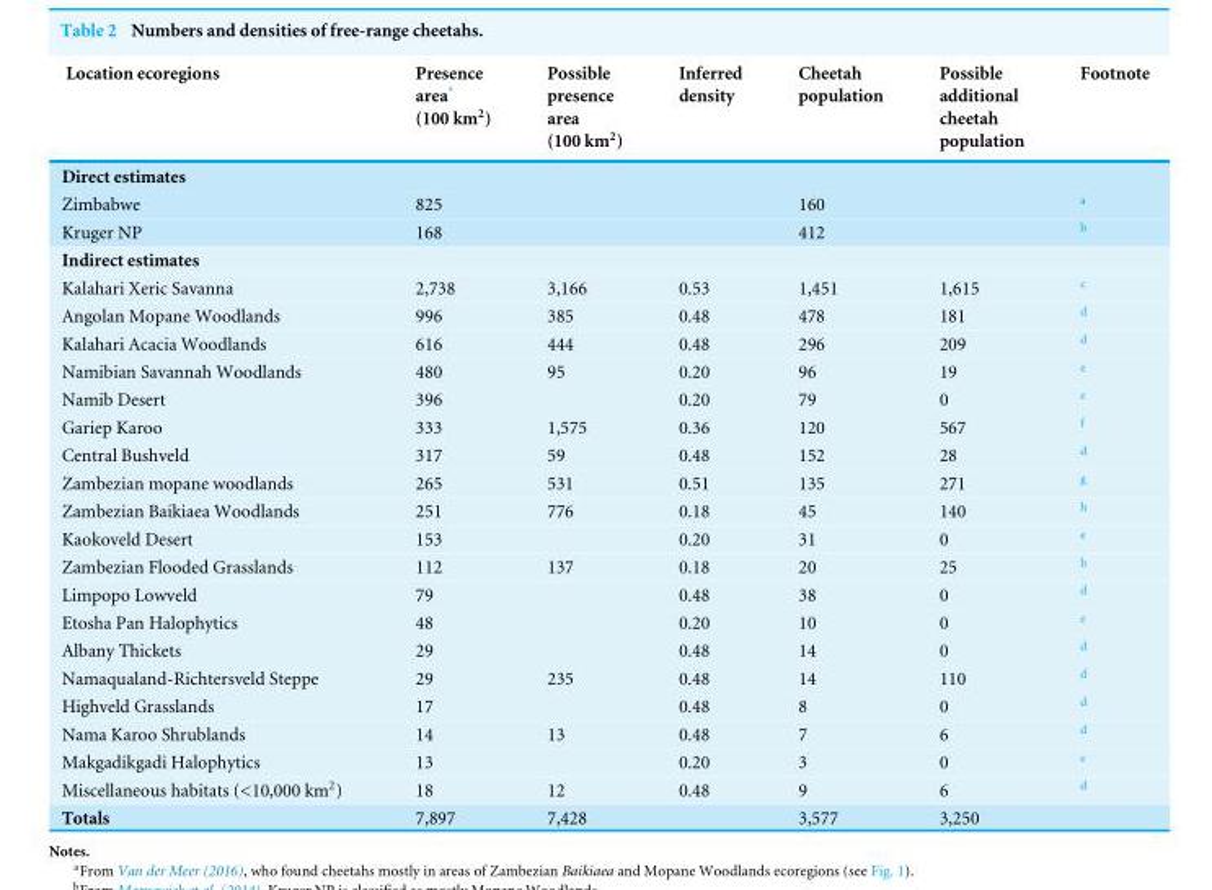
<table><thead><tr><td>Location ecoregions</td><td>Presence area* (100 km<sup>2</sup>)</td><td>Possible presence area (100 km<sup>2</sup>)</td><td>Inferred density</td><td>Cheetah population</td><td>Possible additional cheetah population</td><td>Footnote</td></tr></thead><tbody><tr><td colspan="7">Direct estimates</td></tr><tr><td>Zimbabwe</td><td>825</td><td></td><td></td><td>160</td><td></td><td><sup>a</sup></td></tr><tr><td>Kruger NP</td><td>168</td><td></td><td></td><td>412</td><td></td><td><sup>b</sup></td></tr><tr><td colspan="7">Indirect estimates</td></tr><tr><td>Kalahari Xeric Savanna</td><td>2,738</td><td>3,166</td><td>0.53</td><td>1,451</td><td>1,615</td><td><sup>c</sup></td></tr><tr><td>Angolan Mopane Woodlands</td><td>996</td><td>385</td><td>0.48</td><td>478</td><td>181</td><td><sup>d</sup></td></tr><tr><td>Kalahari Acacia Woodlands</td><td>616</td><td>444</td><td>0.48</td><td>296</td><td>209</td><td><sup>d</sup></td></tr><tr><td>Namibian Savannah Woodlands</td><td>480</td><td>95</td><td>0.20</td><td>96</td><td>19</td><td><sup>e</sup></td></tr><tr><td>Namib Desert</td><td>396</td><td></td><td>0.20</td><td>79</td><td>0</td><td><sup>e</sup></td></tr><tr><td>Gariep Karoo</td><td>333</td><td>1,575</td><td>0.36</td><td>120</td><td>567</td><td><sup>f</sup></td></tr><tr><td>Central Bushveld</td><td>317</td><td>59</td><td>0.48</td><td>152</td><td>28</td><td><sup>d</sup></td></tr><tr><td>Zambezian mopane woodlands</td><td>265</td><td>531</td><td>0.51</td><td>135</td><td>271</td><td><sup>g</sup></td></tr><tr><td>Zambezian Baikiaea Woodlands</td><td>251</td><td>776</td><td>0.18</td><td>45</td><td>140</td><td><sup>h</sup></td></tr><tr><td>Kaokoveld Desert</td><td>153</td><td></td><td>0.20</td><td>31</td><td>0</td><td><sup>e</sup></td></tr><tr><td>Zambezian Flooded Grasslands</td><td>112</td><td>137</td><td>0.18</td><td>20</td><td>25</td><td><sup>h</sup></td></tr><tr><td>Limpopo Lowveld</td><td>79</td><td></td><td>0.48</td><td>38</td><td>0</td><td><sup>d</sup></td></tr><tr><td>Etosha Pan Halophytics</td><td>48</td><td></td><td>0.20</td><td>10</td><td>0</td><td><sup>e</sup></td></tr><tr><td>Albany Thickets</td><td>29</td><td></td><td>0.48</td><td>14</td><td>0</td><td><sup>d</sup></td></tr><tr><td>Namaqualand-Richtersveld Steppe</td><td>29</td><td>235</td><td>0.48</td><td>14</td><td>110</td><td><sup>d</sup></td></tr><tr><td>Highveld Grasslands</td><td>17</td><td></td><td>0.48</td><td>8</td><td>0</td><td><sup>d</sup></td></tr><tr><td>Nama Karoo Shrublands</td><td>14</td><td>13</td><td>0.48</td><td>7</td><td>6</td><td><sup>d</sup></td></tr><tr><td>Makgadikgadi Halophytics</td><td>13</td><td></td><td>0.20</td><td>3</td><td>0</td><td><sup>e</sup></td></tr><tr><td>Miscellaneous habitats (&lt;10,000 km<sup>2</sup>)</td><td>18</td><td>12</td><td>0.48</td><td>9</td><td>6</td><td><sup>d</sup></td></tr><tr><td>Totals</td><td>7,897</td><td>7,428</td><td></td><td>3,577</td><td>3,250</td><td></td></tr></tbody></table>